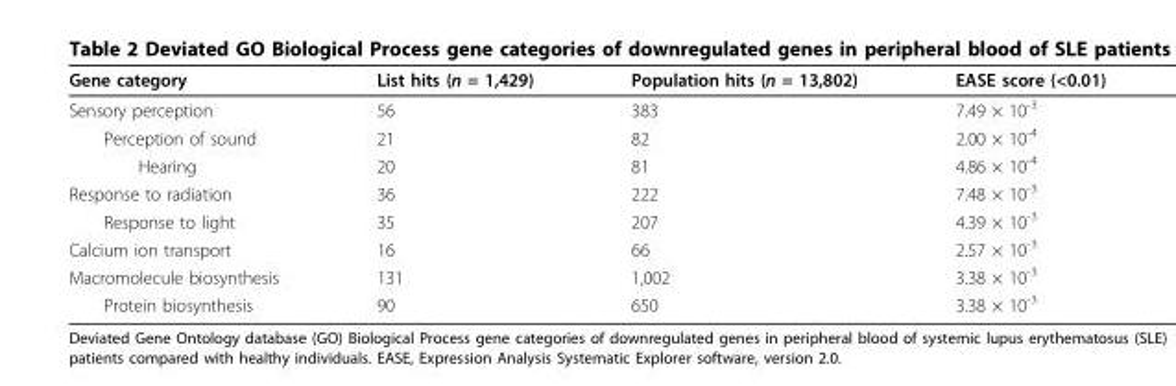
<table><thead><tr><td>Gene category</td><td>List hits (n = 1,429)</td><td>Population hits (n = 13,802)</td><td>EASE score (&lt;0.01)</td></tr></thead><tbody><tr><td>Sensory perception</td><td>56</td><td>383</td><td>7.49 × 10<sup>-3</sup></td></tr><tr><td>Perception of sound</td><td>21</td><td>82</td><td>2.00 × 10<sup>-4</sup></td></tr><tr><td>Hearing</td><td>20</td><td>81</td><td>4.86 × 10<sup>-4</sup></td></tr><tr><td>Response to radiation</td><td>36</td><td>222</td><td>7.48 × 10<sup>-3</sup></td></tr><tr><td>Response to light</td><td>35</td><td>207</td><td>4.39 × 10<sup>-3</sup></td></tr><tr><td>Calcium ion transport</td><td>16</td><td>66</td><td>2.57 × 10<sup>-3</sup></td></tr><tr><td>Macromolecule biosynthesis</td><td>131</td><td>1,002</td><td>3.38 × 10<sup>-3</sup></td></tr><tr><td>Protein biosynthesis</td><td>90</td><td>650</td><td>3.38 × 10<sup>-3</sup></td></tr></tbody></table>